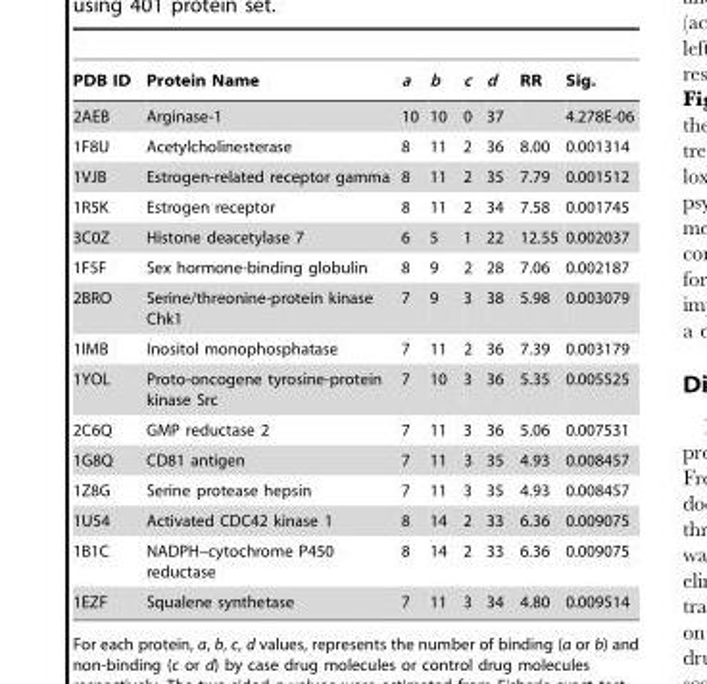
<table><thead><tr><td>PDB ID</td><td>Protein Name</td><td>a</td><td>b</td><td>c</td><td>d</td><td>RR</td><td>Sig.</td></tr></thead><tbody><tr><td>2AEB</td><td>Arginase-1</td><td>10</td><td>10</td><td>0</td><td>37</td><td></td><td>4.278E-06</td></tr><tr><td>1F8U</td><td>Acetylcholinesterase</td><td>8</td><td>11</td><td>2</td><td>36</td><td>8.00</td><td>0.001314</td></tr><tr><td>1VJB</td><td>Estrogen-related receptor gamma</td><td>8</td><td>11</td><td>2</td><td>35</td><td>7.79</td><td>0.001512</td></tr><tr><td>1R5K</td><td>Estrogen receptor</td><td>8</td><td>11</td><td>2</td><td>34</td><td>7.58</td><td>0.001745</td></tr><tr><td>3C0Z</td><td>Histone deacetylase 7</td><td>6</td><td>5</td><td>1</td><td>22</td><td>12.55</td><td>0.002037</td></tr><tr><td>1F5F</td><td>Sex hormone-binding globulin</td><td>8</td><td>9</td><td>2</td><td>28</td><td>7.06</td><td>0.002187</td></tr><tr><td>2BRO</td><td>Serine/threonine-protein kinase Chk1</td><td>7</td><td>9</td><td>3</td><td>38</td><td>5.98</td><td>0.003079</td></tr><tr><td>1IMB</td><td>Inositol monophosphatase</td><td>7</td><td>11</td><td>2</td><td>36</td><td>7.39</td><td>0.003179</td></tr><tr><td>1YOL</td><td>Proto-oncogene tyrosine-protein kinase Src</td><td>7</td><td>10</td><td>3</td><td>36</td><td>5.35</td><td>0.005525</td></tr><tr><td>2C6Q</td><td>GMP reductase 2</td><td>7</td><td>11</td><td>3</td><td>36</td><td>5.06</td><td>0.007531</td></tr><tr><td>1G8Q</td><td>CD81 antigen</td><td>7</td><td>11</td><td>3</td><td>35</td><td>4.93</td><td>0.008457</td></tr><tr><td>1Z8G</td><td>Serine protease hepsin</td><td>7</td><td>11</td><td>3</td><td>35</td><td>4.93</td><td>0.008457</td></tr><tr><td>1U54</td><td>Activated CDC42 kinase 1</td><td>8</td><td>14</td><td>2</td><td>33</td><td>6.36</td><td>0.009075</td></tr><tr><td>1B1C</td><td>NADPH–cytochrome P450 reductase</td><td>8</td><td>14</td><td>2</td><td>33</td><td>6.36</td><td>0.009075</td></tr><tr><td>1EZF</td><td>Squalene synthetase</td><td>7</td><td>11</td><td>3</td><td>34</td><td>4.80</td><td>0.009514</td></tr></tbody></table>